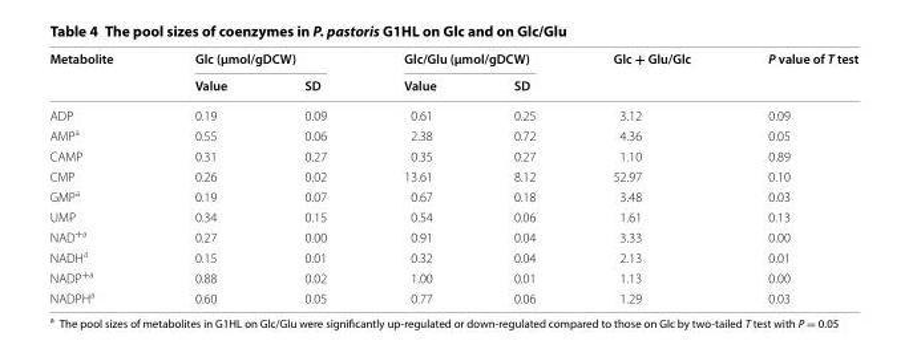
<table><thead><tr><td rowspan="2">Metabolite</td><td colspan="2">Glc (μmol/gDCW)</td><td colspan="2">Glc/Glu (μmol/gDCW)</td><td rowspan="2">Glc + Glu/Glc</td><td rowspan="2">P value of T test</td></tr><tr><td>Value</td><td>SD</td><td>Value</td><td>SD</td></tr></thead><tbody><tr><td>ADP</td><td>0.19</td><td>0.09</td><td>0.61</td><td>0.25</td><td>3.12</td><td>0.09</td></tr><tr><td>AMP<sup>a</sup></td><td>0.55</td><td>0.06</td><td>2.38</td><td>0.72</td><td>4.36</td><td>0.05</td></tr><tr><td>CAMP</td><td>0.31</td><td>0.27</td><td>0.35</td><td>0.27</td><td>1.10</td><td>0.89</td></tr><tr><td>CMP</td><td>0.26</td><td>0.02</td><td>13.61</td><td>8.12</td><td>52.97</td><td>0.10</td></tr><tr><td>GMP<sup>a</sup></td><td>0.19</td><td>0.07</td><td>0.67</td><td>0.18</td><td>3.48</td><td>0.03</td></tr><tr><td>UMP</td><td>0.34</td><td>0.15</td><td>0.54</td><td>0.06</td><td>1.61</td><td>0.13</td></tr><tr><td>NAD<sup>+a</sup></td><td>0.27</td><td>0.00</td><td>0.91</td><td>0.04</td><td>3.33</td><td>0.00</td></tr><tr><td>NADH<sup>a</sup></td><td>0.15</td><td>0.01</td><td>0.32</td><td>0.04</td><td>2.13</td><td>0.01</td></tr><tr><td>NADP<sup>+a</sup></td><td>0.88</td><td>0.02</td><td>1.00</td><td>0.01</td><td>1.13</td><td>0.00</td></tr><tr><td>NADPH<sup>a</sup></td><td>0.60</td><td>0.05</td><td>0.77</td><td>0.06</td><td>1.29</td><td>0.03</td></tr></tbody></table>